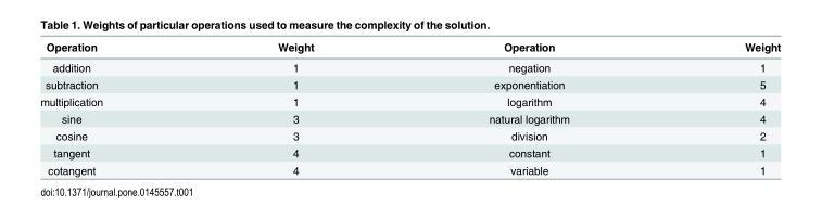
<table><thead><tr><td>Operation</td><td>Weight</td><td>Operation</td><td>Weight</td></tr></thead><tbody><tr><td>addition</td><td>1</td><td>negation</td><td>1</td></tr><tr><td>subtraction</td><td>1</td><td>exponentiation</td><td>5</td></tr><tr><td>multiplication</td><td>1</td><td>logarithm</td><td>4</td></tr><tr><td>sine</td><td>3</td><td>natural logarithm</td><td>4</td></tr><tr><td>cosine</td><td>3</td><td>division</td><td>2</td></tr><tr><td>tangent</td><td>4</td><td>constant</td><td>1</td></tr><tr><td>cotangent</td><td>4</td><td>variable</td><td>1</td></tr></tbody></table>